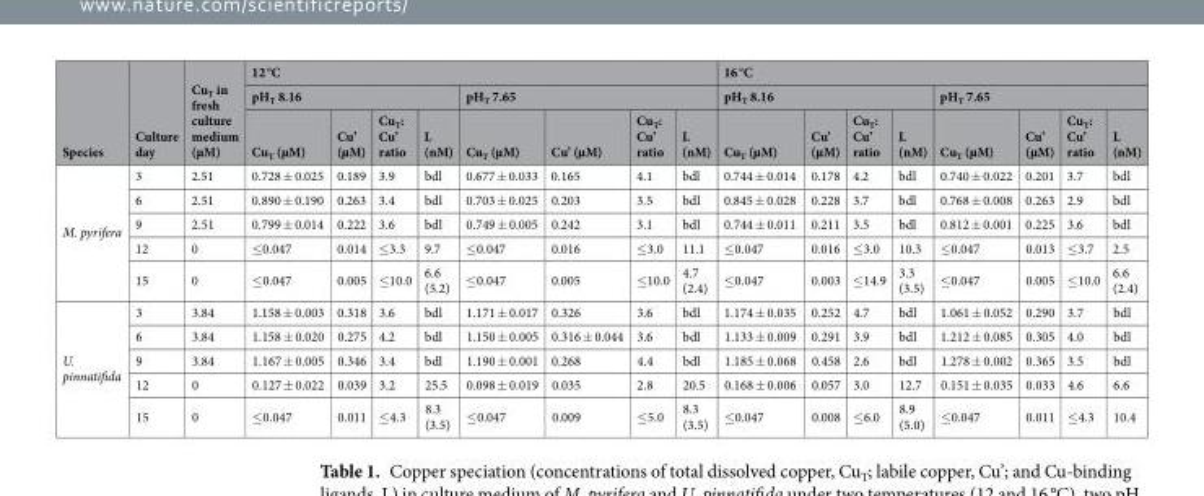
<table><thead><tr><td rowspan="3">Species</td><td rowspan="3">Culture day</td><td rowspan="3">Cu<sub>T</sub> in fresh culture medium (µM)</td><td colspan="8">12 °C</td><td colspan="8">16 °C</td></tr><tr><td colspan="4">pH<sub>T</sub> 8.16</td><td colspan="4">pH<sub>T</sub> 7.65</td><td colspan="4">pH<sub>T</sub> 8.16</td><td colspan="4">pH<sub>T</sub> 7.65</td></tr><tr><td>Cu<sub>T</sub> (µM)</td><td>Cu’ (µM)</td><td>Cu<sub>T</sub>: Cu’ ratio</td><td>L (nM)</td><td>Cu<sub>T</sub> (µM)</td><td>Cu’ (µM)</td><td>Cu<sub>T</sub>: Cu’ ratio</td><td>L (nM)</td><td>Cu<sub>T</sub> (µM)</td><td>Cu’ (µM)</td><td>Cu<sub>T</sub>: Cu’ ratio</td><td>L (nM)</td><td>Cu<sub>T</sub> (µM)</td><td>Cu’ (µM)</td><td>Cu<sub>T</sub>: Cu’ ratio</td><td>L (nM)</td></tr></thead><tbody><tr><td rowspan="5">M. pyrifera</td><td>3</td><td>2.51</td><td>0.728 ± 0.025</td><td>0.189</td><td>3.9</td><td>bdl</td><td>0.677 ± 0.033</td><td>0.165</td><td>4.1</td><td>bdl</td><td>0.744 ± 0.014</td><td>0.178</td><td>4.2</td><td>bdl</td><td>0.740 ± 0.022</td><td>0.201</td><td>3.7</td><td>bdl</td></tr><tr><td>6</td><td>2.51</td><td>0.890 ± 0.190</td><td>0.263</td><td>3.4</td><td>bdl</td><td>0.703 ± 0.025</td><td>0.203</td><td>3.5</td><td>bdl</td><td>0.845 ± 0.028</td><td>0.228</td><td>3.7</td><td>bdl</td><td>0.768 ± 0.008</td><td>0.263</td><td>2.9</td><td>bdl</td></tr><tr><td>9</td><td>2.51</td><td>0.799 ± 0.014</td><td>0.222</td><td>3.6</td><td>bdl</td><td>0.749 ± 0.005</td><td>0.242</td><td>3.1</td><td>bdl</td><td>0.744 ± 0.011</td><td>0.211</td><td>3.5</td><td>bdl</td><td>0.812 ± 0.001</td><td>0.225</td><td>3.6</td><td>bdl</td></tr><tr><td>12</td><td>0</td><td>≤0.047</td><td>0.014</td><td>≤3.3</td><td>9.7</td><td>≤0.047</td><td>0.016</td><td>≤3.0</td><td>11.1</td><td>≤0.047</td><td>0.016</td><td>≤3.0</td><td>10.3</td><td>≤0.047</td><td>0.013</td><td>≤3.7</td><td>2.5</td></tr><tr><td>15</td><td>0</td><td>≤0.047</td><td>0.005</td><td>≤10.0</td><td>6.6 (5.2)</td><td>≤0.047</td><td>0.005</td><td>≤10.0</td><td>4.7 (2.4)</td><td>≤0.047</td><td>0.003</td><td>≤14.9</td><td>3.3 (3.5)</td><td>≤0.047</td><td>0.005</td><td>≤10.0</td><td>6.6 (2.4)</td></tr><tr><td rowspan="5">U. pinnatifida</td><td>3</td><td>3.84</td><td>1.158 ± 0.003</td><td>0.318</td><td>3.6</td><td>bdl</td><td>1.171 ± 0.017</td><td>0.326</td><td>3.6</td><td>bdl</td><td>1.174 ± 0.035</td><td>0.252</td><td>4.7</td><td>bdl</td><td>1.061 ± 0.052</td><td>0.290</td><td>3.7</td><td>bdl</td></tr><tr><td>6</td><td>3.84</td><td>1.158 ± 0.020</td><td>0.275</td><td>4.2</td><td>bdl</td><td>1.150 ± 0.005</td><td>0.316 ± 0.044</td><td>3.6</td><td>bdl</td><td>1.133 ± 0.009</td><td>0.291</td><td>3.9</td><td>bdl</td><td>1.212 ± 0.085</td><td>0.305</td><td>4.0</td><td>bdl</td></tr><tr><td>9</td><td>3.84</td><td>1.167 ± 0.005</td><td>0.346</td><td>3.4</td><td>bdl</td><td>1.190 ± 0.001</td><td>0.268</td><td>4.4</td><td>bdl</td><td>1.185 ± 0.068</td><td>0.458</td><td>2.6</td><td>bdl</td><td>1.278 ± 0.002</td><td>0.365</td><td>3.5</td><td>bdl</td></tr><tr><td>12</td><td>0</td><td>0.127 ± 0.022</td><td>0.039</td><td>3.2</td><td>25.5</td><td>0.098 ± 0.019</td><td>0.035</td><td>2.8</td><td>20.5</td><td>0.168 ± 0.006</td><td>0.057</td><td>3.0</td><td>12.7</td><td>0.151 ± 0.035</td><td>0.033</td><td>4.6</td><td>6.6</td></tr><tr><td>15</td><td>0</td><td>≤0.047</td><td>0.011</td><td>≤4.3</td><td>8.3 (3.5)</td><td>≤0.047</td><td>0.009</td><td>≤5.0</td><td>8.3 (3.5)</td><td>≤0.047</td><td>0.008</td><td>≤6.0</td><td>8.9 (5.0)</td><td>≤0.047</td><td>0.011</td><td>≤4.3</td><td>10.4</td></tr></tbody></table>